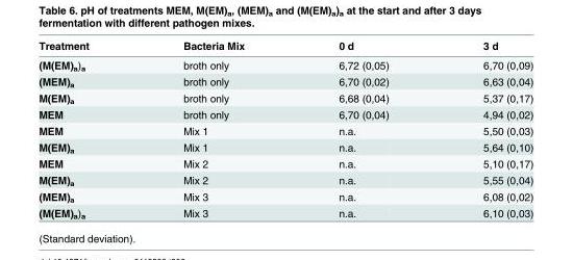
<table><thead><tr><td>Treatment</td><td>Bacteria Mix</td><td>0 d</td><td>3 d</td></tr></thead><tbody><tr><td>(M(EM)<sub>a</sub>)<sub>a</sub></td><td>broth only</td><td>6,72 (0,05)</td><td>6,70 (0,09)</td></tr><tr><td>(MEM)<sub>a</sub></td><td>broth only</td><td>6,70 (0,02)</td><td>6,63 (0,04)</td></tr><tr><td>M(EM)<sub>a</sub></td><td>broth only</td><td>6,68 (0,04)</td><td>5,37 (0,17)</td></tr><tr><td>MEM</td><td>broth only</td><td>6,70 (0,04)</td><td>4,94 (0,02)</td></tr><tr><td>MEM</td><td>Mix 1</td><td>n.a.</td><td>5,50 (0,03)</td></tr><tr><td>M(EM)<sub>a</sub></td><td>Mix 1</td><td>n.a.</td><td>5,64 (0,10)</td></tr><tr><td>MEM</td><td>Mix 2</td><td>n.a.</td><td>5,10 (0,17)</td></tr><tr><td>M(EM)<sub>a</sub></td><td>Mix 2</td><td>n.a.</td><td>5,55 (0,04)</td></tr><tr><td>(MEM)<sub>a</sub></td><td>Mix 3</td><td>n.a.</td><td>6,08 (0,02)</td></tr><tr><td>(M(EM)<sub>a</sub>)<sub>a</sub></td><td>Mix 3</td><td>n.a.</td><td>6,10 (0,03)</td></tr></tbody></table>